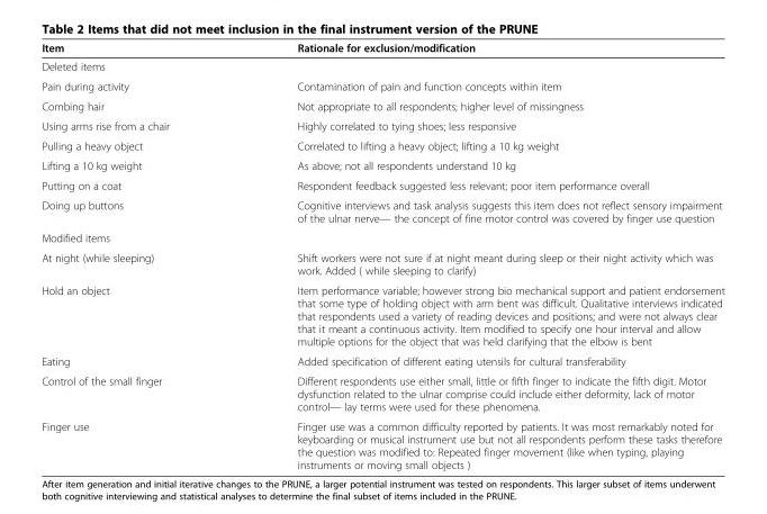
<table><thead><tr><td>Item</td><td>Rationale for exclusion/modification</td></tr></thead><tbody><tr><td colspan="2">Deleted items</td></tr><tr><td>Pain during activity</td><td>Contamination of pain and function concepts within item</td></tr><tr><td>Combing hair</td><td>Not appropriate to all respondents; higher level of missingness</td></tr><tr><td>Using arms rise from a chair</td><td>Highly correlated to tying shoes; less responsive</td></tr><tr><td>Pulling a heavy object</td><td>Correlated to lifting a heavy object; lifting a 10 kg weight</td></tr><tr><td>Lifting a 10 kg weight</td><td>As above; not all respondents understand 10 kg</td></tr><tr><td>Putting on a coat</td><td>Respondent feedback suggested less relevant; poor item performance overall</td></tr><tr><td>Doing up buttons</td><td>Cognitive interviews and task analysis suggests this item does not reflect sensory impairment of the ulnar nerve— the concept of fine motor control was covered by finger use question</td></tr><tr><td colspan="2">Modified items</td></tr><tr><td>At night (while sleeping)</td><td>Shift workers were not sure if at night meant during sleep or their night activity which was work. Added ( while sleeping to clarify)</td></tr><tr><td>Hold an object</td><td>Item performance variable; however strong bio mechanical support and patient endorsement that some type of holding object with arm bent was difficult. Qualitative interviews indicated that respondents used a variety of reading devices and positions; and were not always clear that it meant a continuous activity. Item modified to specify one hour interval and allow multiple options for the object that was held clarifying that the elbow is bent</td></tr><tr><td>Eating</td><td>Added specification of different eating utensils for cultural transferability</td></tr><tr><td>Control of the small finger</td><td>Different respondents use either small, little or fifth finger to indicate the fifth digit. Motor dysfunction related to the ulnar comprise could include either deformity, lack of motor control— lay terms were used for these phenomena.</td></tr><tr><td>Finger use</td><td>Finger use was a common difficulty reported by patients. It was most remarkably noted for keyboarding or musical instrument use but not all respondents perform these tasks therefore the question was modified to: Repeated finger movement (like when typing, playing instruments or moving small objects )</td></tr></tbody></table>